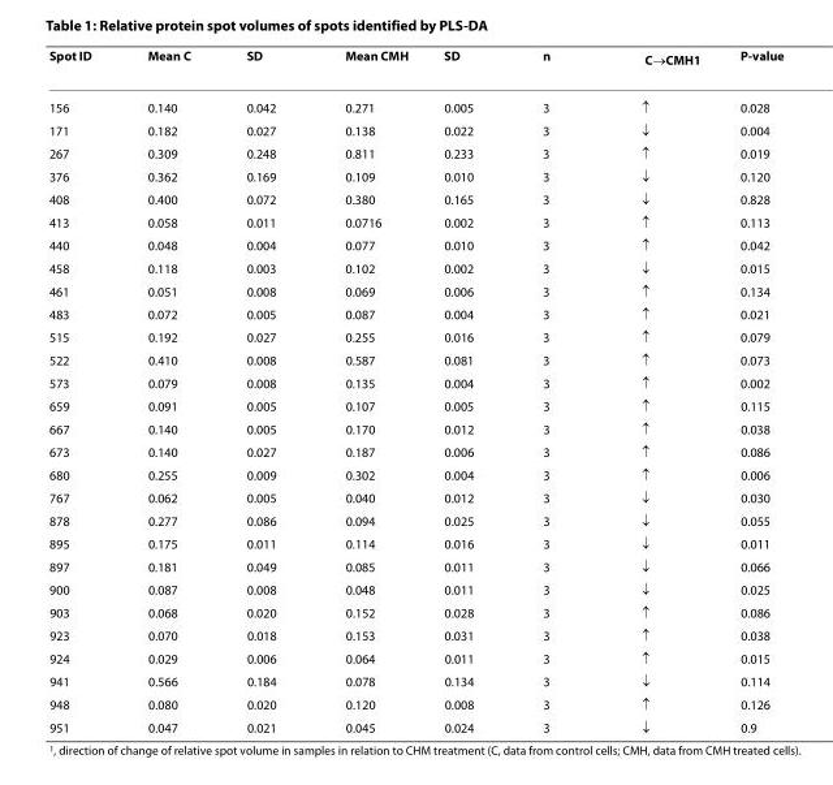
<table><thead><tr><td>Spot ID</td><td>Mean C</td><td>SD</td><td>Mean CMH</td><td>SD</td><td>n</td><td>C→CMH<sup>1</sup></td><td>P-value</td></tr></thead><tbody><tr><td>156</td><td>0.140</td><td>0.042</td><td>0.271</td><td>0.005</td><td>3</td><td>↑</td><td>0.028</td></tr><tr><td>171</td><td>0.182</td><td>0.027</td><td>0.138</td><td>0.022</td><td>3</td><td>↓</td><td>0.004</td></tr><tr><td>267</td><td>0.309</td><td>0.248</td><td>0.811</td><td>0.233</td><td>3</td><td>↑</td><td>0.019</td></tr><tr><td>376</td><td>0.362</td><td>0.169</td><td>0.109</td><td>0.010</td><td>3</td><td>↓</td><td>0.120</td></tr><tr><td>408</td><td>0.400</td><td>0.072</td><td>0.380</td><td>0.165</td><td>3</td><td>↓</td><td>0.828</td></tr><tr><td>413</td><td>0.058</td><td>0.011</td><td>0.0716</td><td>0.002</td><td>3</td><td>↑</td><td>0.113</td></tr><tr><td>440</td><td>0.048</td><td>0.004</td><td>0.077</td><td>0.010</td><td>3</td><td>↑</td><td>0.042</td></tr><tr><td>458</td><td>0.118</td><td>0.003</td><td>0.102</td><td>0.002</td><td>3</td><td>↓</td><td>0.015</td></tr><tr><td>461</td><td>0.051</td><td>0.008</td><td>0.069</td><td>0.006</td><td>3</td><td>↑</td><td>0.134</td></tr><tr><td>483</td><td>0.072</td><td>0.005</td><td>0.087</td><td>0.004</td><td>3</td><td>↑</td><td>0.021</td></tr><tr><td>515</td><td>0.192</td><td>0.027</td><td>0.255</td><td>0.016</td><td>3</td><td>↑</td><td>0.079</td></tr><tr><td>522</td><td>0.410</td><td>0.008</td><td>0.587</td><td>0.081</td><td>3</td><td>↑</td><td>0.073</td></tr><tr><td>573</td><td>0.079</td><td>0.008</td><td>0.135</td><td>0.004</td><td>3</td><td>↑</td><td>0.002</td></tr><tr><td>659</td><td>0.091</td><td>0.005</td><td>0.107</td><td>0.005</td><td>3</td><td>↑</td><td>0.115</td></tr><tr><td>667</td><td>0.140</td><td>0.005</td><td>0.170</td><td>0.012</td><td>3</td><td>↑</td><td>0.038</td></tr><tr><td>673</td><td>0.140</td><td>0.027</td><td>0.187</td><td>0.006</td><td>3</td><td>↑</td><td>0.086</td></tr><tr><td>680</td><td>0.255</td><td>0.009</td><td>0.302</td><td>0.004</td><td>3</td><td>↑</td><td>0.006</td></tr><tr><td>767</td><td>0.062</td><td>0.005</td><td>0.040</td><td>0.012</td><td>3</td><td>↓</td><td>0.030</td></tr><tr><td>878</td><td>0.277</td><td>0.086</td><td>0.094</td><td>0.025</td><td>3</td><td>↓</td><td>0.055</td></tr><tr><td>895</td><td>0.175</td><td>0.011</td><td>0.114</td><td>0.016</td><td>3</td><td>↓</td><td>0.011</td></tr><tr><td>897</td><td>0.181</td><td>0.049</td><td>0.085</td><td>0.011</td><td>3</td><td>↓</td><td>0.066</td></tr><tr><td>900</td><td>0.087</td><td>0.008</td><td>0.048</td><td>0.011</td><td>3</td><td>↓</td><td>0.025</td></tr><tr><td>903</td><td>0.068</td><td>0.020</td><td>0.152</td><td>0.028</td><td>3</td><td>↑</td><td>0.086</td></tr><tr><td>923</td><td>0.070</td><td>0.018</td><td>0.153</td><td>0.031</td><td>3</td><td>↑</td><td>0.038</td></tr><tr><td>924</td><td>0.029</td><td>0.006</td><td>0.064</td><td>0.011</td><td>3</td><td>↑</td><td>0.015</td></tr><tr><td>941</td><td>0.566</td><td>0.184</td><td>0.078</td><td>0.134</td><td>3</td><td>↓</td><td>0.114</td></tr><tr><td>948</td><td>0.080</td><td>0.020</td><td>0.120</td><td>0.008</td><td>3</td><td>↑</td><td>0.126</td></tr><tr><td>951</td><td>0.047</td><td>0.021</td><td>0.045</td><td>0.024</td><td>3</td><td>↓</td><td>0.9</td></tr></tbody></table>